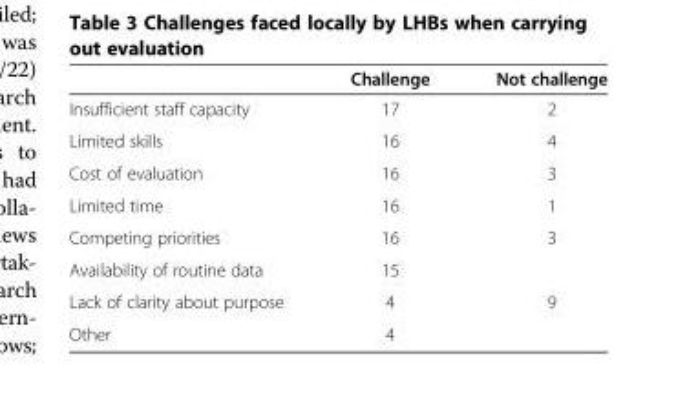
<table><thead><tr><td></td><td>Challenge</td><td>Not challenge</td></tr></thead><tbody><tr><td>Insufficient staff capacity</td><td>17</td><td>2</td></tr><tr><td>Limited skills</td><td>16</td><td>4</td></tr><tr><td>Cost of evaluation</td><td>16</td><td>3</td></tr><tr><td>Limited time</td><td>16</td><td>1</td></tr><tr><td>Competing priorities</td><td>16</td><td>3</td></tr><tr><td>Availability of routine data</td><td>15</td><td></td></tr><tr><td>Lack of clarity about purpose</td><td>4</td><td>9</td></tr><tr><td>Other</td><td>4</td><td></td></tr></tbody></table>